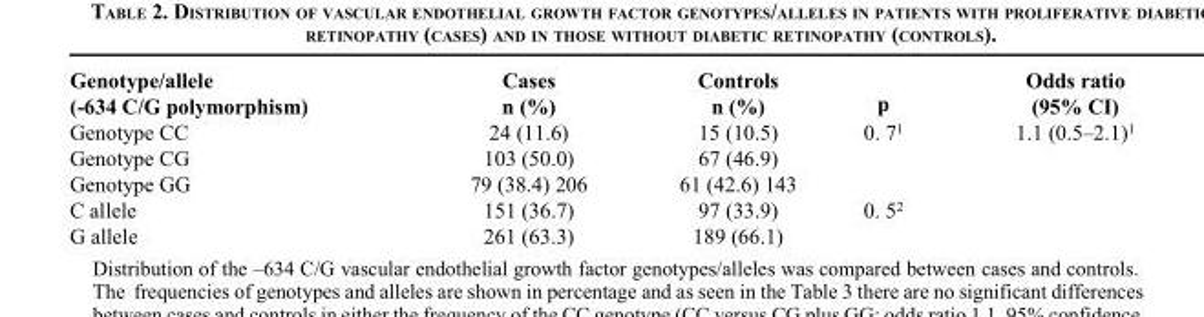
<table><thead><tr><td>Genotype/allele (-634 C/G polymorphism)</td><td>Cases n (%)</td><td>Controls n (%)</td><td>p</td><td>Odds ratio (95% CI)</td></tr></thead><tbody><tr><td>Genotype CC</td><td>24 (11.6)</td><td>15 (10.5)</td><td>0. 7<sup>1</sup></td><td>1.1 (0.5–2.1)<sup>1</sup></td></tr><tr><td>Genotype CG</td><td>103 (50.0)</td><td>67 (46.9)</td><td></td><td></td></tr><tr><td>Genotype GG</td><td>79 (38.4) 206</td><td>61 (42.6) 143</td><td></td><td></td></tr><tr><td>C allele</td><td>151 (36.7)</td><td>97 (33.9)</td><td>0. 5<sup>2</sup></td><td></td></tr><tr><td>G allele</td><td>261 (63.3)</td><td>189 (66.1)</td><td></td><td></td></tr></tbody></table>